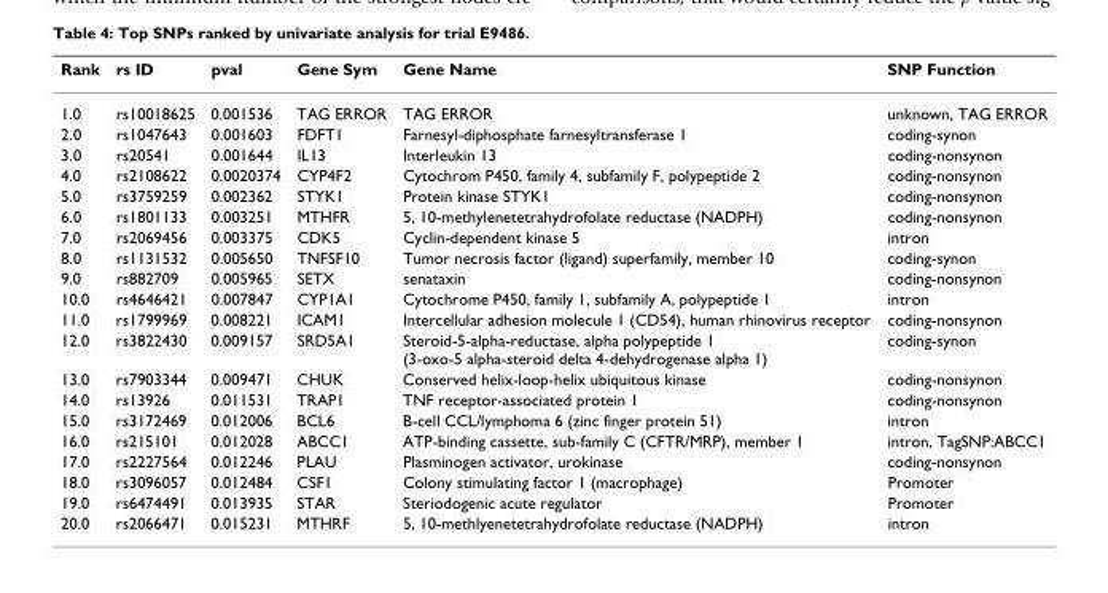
<table><thead><tr><td>Rank</td><td>rs ID</td><td>pval</td><td>Gene Sym</td><td>Gene Name</td><td>SNP Function</td></tr></thead><tbody><tr><td>1.0</td><td>rs10018625</td><td>0.001536</td><td>TAG ERROR</td><td>TAG ERROR</td><td>unknown, TAG ERROR</td></tr><tr><td>2.0</td><td>rs1047643</td><td>0.001603</td><td>FDFT1</td><td>Farnesyl-diphosphate farnesyltransferase 1</td><td>coding-synon</td></tr><tr><td>3.0</td><td>rs20541</td><td>0.001644</td><td>IL13</td><td>Interleukin 13</td><td>coding-nonsynon</td></tr><tr><td>4.0</td><td>rs2108622</td><td>0.0020374</td><td>CYP4F2</td><td>Cytochrom P450, family 4, subfamily F, polypeptide 2</td><td>coding-nonsynon</td></tr><tr><td>5.0</td><td>rs3759259</td><td>0.002362</td><td>STYK1</td><td>Protein kinase STYK1</td><td>coding-nonsynon</td></tr><tr><td>6.0</td><td>rs1801133</td><td>0.003251</td><td>MTHFR</td><td>5, 10-methylenetetrahydrofolate reductase (NADPH)</td><td>coding-nonsynon</td></tr><tr><td>7.0</td><td>rs2069456</td><td>0.003375</td><td>CDK5</td><td>Cyclin-dependent kinase 5</td><td>intron</td></tr><tr><td>8.0</td><td>rs1131532</td><td>0.005650</td><td>TNFSF10</td><td>Tumor necrosis factor (ligand) superfamily, member 10</td><td>coding-synon</td></tr><tr><td>9.0</td><td>rs882709</td><td>0.005965</td><td>SETX</td><td>senataxin</td><td>coding-nonsynon</td></tr><tr><td>10.0</td><td>rs4646421</td><td>0.007847</td><td>CYP1A1</td><td>Cytochrome P450, family 1, subfamily A, polypeptide 1</td><td>intron</td></tr><tr><td>11.0</td><td>rs1799969</td><td>0.008221</td><td>ICAM1</td><td>Intercellular adhesion molecule 1 (CD54), human rhinovirus receptor</td><td>coding-nonsynon</td></tr><tr><td>12.0</td><td>rs3822430</td><td>0.009157</td><td>SRD5A1</td><td>Steroid-5-alpha-reductase, alpha polypeptide 1 (3-oxo-5 alpha-steroid delta 4-dehydrogenase alpha 1)</td><td>coding-synon</td></tr><tr><td>13.0</td><td>rs7903344</td><td>0.009471</td><td>CHUK</td><td>Conserved helix-loop-helix ubiquitous kinase</td><td>coding-nonsynon</td></tr><tr><td>14.0</td><td>rs13926</td><td>0.011531</td><td>TRAP1</td><td>TNF receptor-associated protein 1</td><td>coding-nonsynon</td></tr><tr><td>15.0</td><td>rs3172469</td><td>0.012006</td><td>BCL6</td><td>B-cell CCL/lymphoma 6 (zinc finger protein 51)</td><td>intron</td></tr><tr><td>16.0</td><td>rs215101</td><td>0.012028</td><td>ABCC1</td><td>ATP-binding cassette, sub-family C (CFTR/MRP), member 1</td><td>intron, TagSNP:ABCC1</td></tr><tr><td>17.0</td><td>rs2227564</td><td>0.012246</td><td>PLAU</td><td>Plasminogen activator, urokinase</td><td>coding-nonsynon</td></tr><tr><td>18.0</td><td>rs3096057</td><td>0.012484</td><td>CSF1</td><td>Colony stimulating factor 1 (macrophage)</td><td>Promoter</td></tr><tr><td>19.0</td><td>rs6474491</td><td>0.013935</td><td>STAR</td><td>Steriodogenic acute regulator</td><td>Promoter</td></tr><tr><td>20.0</td><td>rs2066471</td><td>0.015231</td><td>MTHRF</td><td>5, 10-methlyenetetrahydrofolate reductase (NADPH)</td><td>intron</td></tr></tbody></table>